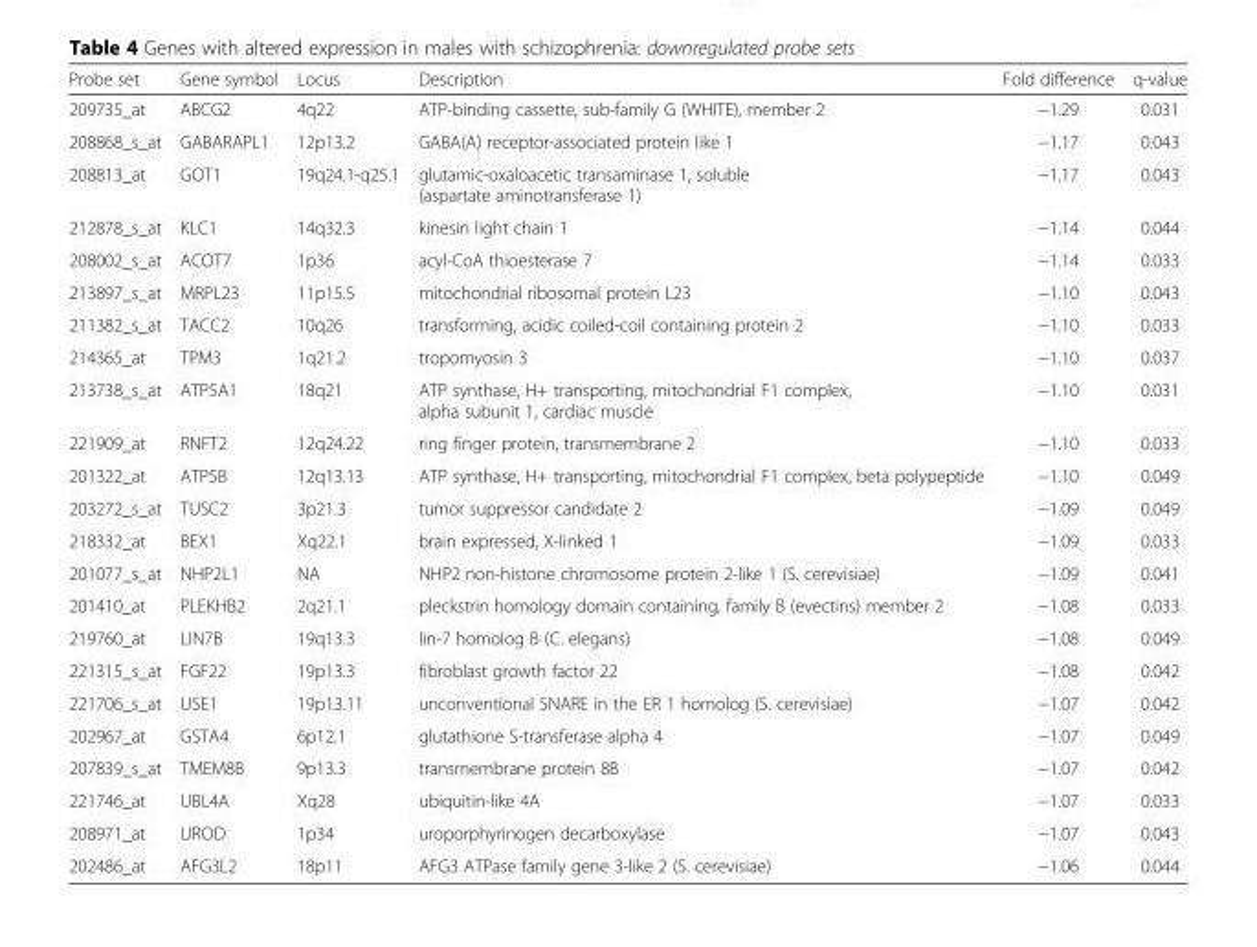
<table><thead><tr><td>Probe set</td><td>Gene symbol</td><td>Locus</td><td>Description</td><td>Fold difference</td><td>q-value</td></tr></thead><tbody><tr><td>209735_at</td><td>ABCG2</td><td>4q22</td><td>ATP-binding cassette, sub-family G (WHITE), member 2</td><td>−1.29</td><td>0.031</td></tr><tr><td>208868_s_at</td><td>GABARAPL1</td><td>12p13.2</td><td>GABA(A) receptor-associated protein like 1</td><td>−1.17</td><td>0.043</td></tr><tr><td>208813_at</td><td>GOT1</td><td>19q24.1-q25.1</td><td>glutamic-oxaloacetic transaminase 1, soluble (aspartate aminotransferase 1)</td><td>−1.17</td><td>0.043</td></tr><tr><td>212878_s_at</td><td>KLC1</td><td>14q32.3</td><td>kinesin light chain 1</td><td>−1.14</td><td>0.044</td></tr><tr><td>208002_s_at</td><td>ACOT7</td><td>1p36</td><td>acyl-CoA thioesterase 7</td><td>−1.14</td><td>0.033</td></tr><tr><td>213897_s_at</td><td>MRPL23</td><td>11p15.5</td><td>mitochondrial ribosomal protein L23</td><td>−1.10</td><td>0.043</td></tr><tr><td>211382_s_at</td><td>TACC2</td><td>10q26</td><td>transforming, acidic coiled-coil containing protein 2</td><td>−1.10</td><td>0.033</td></tr><tr><td>214365_at</td><td>TPM3</td><td>1q21.2</td><td>tropomyosin 3</td><td>−1.10</td><td>0.037</td></tr><tr><td>213738_s_at</td><td>ATP5A1</td><td>18q21</td><td>ATP synthase, H+ transporting, mitochondrial F1 complex, alpha subunit 1, cardiac muscle</td><td>−1.10</td><td>0.031</td></tr><tr><td>221909_at</td><td>RNFT2</td><td>12q24.22</td><td>ring finger protein, transmembrane 2</td><td>−1.10</td><td>0.033</td></tr><tr><td>201322_at</td><td>ATP5B</td><td>12q13.13</td><td>ATP synthase, H+ transporting, mitochondrial F1 complex, beta polypeptide</td><td>−1.10</td><td>0.049</td></tr><tr><td>203272_s_at</td><td>TUSC2</td><td>3p21.3</td><td>tumor suppressor candidate 2</td><td>−1.09</td><td>0.049</td></tr><tr><td>218332_at</td><td>BEX1</td><td>Xq22.1</td><td>brain expressed, X-linked 1</td><td>−1.09</td><td>0.033</td></tr><tr><td>201077_s_at</td><td>NHP2L1</td><td>NA</td><td>NHP2 non-histone chromosome protein 2-like 1 (S. cerevisiae)</td><td>−1.09</td><td>0.041</td></tr><tr><td>201410_at</td><td>PLEKHB2</td><td>2q21.1</td><td>pleckstrin homology domain containing, family B (evectins) member 2</td><td>−1.08</td><td>0.033</td></tr><tr><td>219760_at</td><td>LIN7B</td><td>19q13.3</td><td>lin-7 homolog B (C. elegans)</td><td>−1.08</td><td>0.049</td></tr><tr><td>221315_s_at</td><td>FGF22</td><td>19p13.3</td><td>fibroblast growth factor 22</td><td>−1.08</td><td>0.042</td></tr><tr><td>221706_s_at</td><td>USE1</td><td>19p13.11</td><td>unconventional SNARE in the ER 1 homolog (S. cerevisiae)</td><td>−1.07</td><td>0.042</td></tr><tr><td>202967_at</td><td>GSTA4</td><td>6p12.1</td><td>glutathione S-transferase alpha 4</td><td>−1.07</td><td>0.049</td></tr><tr><td>207839_s_at</td><td>TMEM8B</td><td>9p13.3</td><td>transmembrane protein 8B</td><td>−1.07</td><td>0.042</td></tr><tr><td>221746_at</td><td>UBL4A</td><td>Xq28</td><td>ubiquitin-like 4A</td><td>−1.07</td><td>0.033</td></tr><tr><td>208971_at</td><td>UROD</td><td>1p34</td><td>uroporphyrinogen decarboxylase</td><td>−1.07</td><td>0.043</td></tr><tr><td>202486_at</td><td>AFG3L2</td><td>18p11</td><td>AFG3 ATPase family gene 3-like 2 (S. cerevisiae)</td><td>−1.06</td><td>0.044</td></tr></tbody></table>